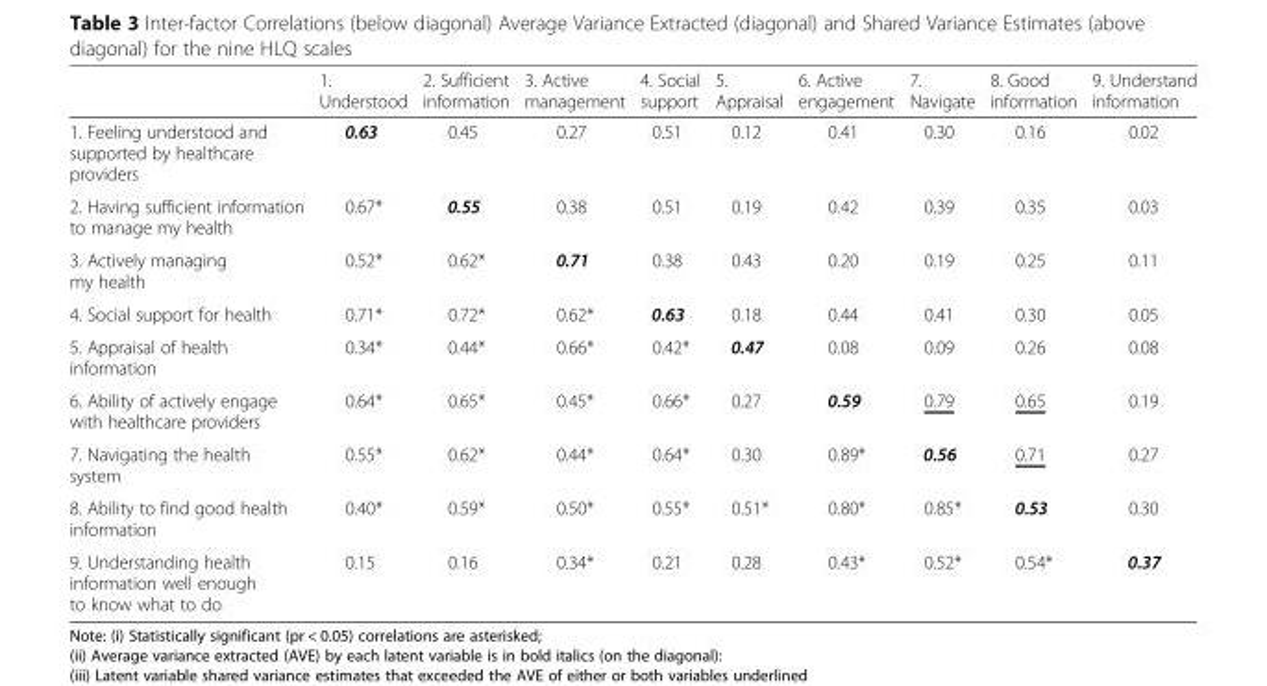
<table><thead><tr><td></td><td>1. Understood</td><td>2. Sufficient information</td><td>3. Active management</td><td>4. Social support</td><td>5. Appraisal</td><td>6. Active engagement</td><td>7. Navigate</td><td>8. Good information</td><td>9. Understand information</td></tr></thead><tbody><tr><td>1. Feeling understood and supported by healthcare providers</td><td>0.63</td><td>0.45</td><td>0.27</td><td>0.51</td><td>0.12</td><td>0.41</td><td>0.30</td><td>0.16</td><td>0.02</td></tr><tr><td>2. Having sufficient information to manage my health</td><td>0.67*</td><td>0.55</td><td>0.38</td><td>0.51</td><td>0.19</td><td>0.42</td><td>0.39</td><td>0.35</td><td>0.03</td></tr><tr><td>3. Actively managing my health</td><td>0.52*</td><td>0.62*</td><td>0.71</td><td>0.38</td><td>0.43</td><td>0.20</td><td>0.19</td><td>0.25</td><td>0.11</td></tr><tr><td>4. Social support for health</td><td>0.71*</td><td>0.72*</td><td>0.62*</td><td>0.63</td><td>0.18</td><td>0.44</td><td>0.41</td><td>0.30</td><td>0.05</td></tr><tr><td>5. Appraisal of health information</td><td>0.34*</td><td>0.44*</td><td>0.66*</td><td>0.42*</td><td>0.47</td><td>0.08</td><td>0.09</td><td>0.26</td><td>0.08</td></tr><tr><td>6. Ability of actively engage with healthcare providers</td><td>0.64*</td><td>0.65*</td><td>0.45*</td><td>0.66*</td><td>0.27</td><td>0.59</td><td>0.79</td><td>0.65</td><td>0.19</td></tr><tr><td>7. Navigating the health system</td><td>0.55*</td><td>0.62*</td><td>0.44*</td><td>0.64*</td><td>0.30</td><td>0.89*</td><td>0.56</td><td>0.71</td><td>0.27</td></tr><tr><td>8. Ability to find good health information</td><td>0.40*</td><td>0.59*</td><td>0.50*</td><td>0.55*</td><td>0.51*</td><td>0.80*</td><td>0.85*</td><td>0.53</td><td>0.30</td></tr><tr><td>9. Understanding health information well enough to know what to do</td><td>0.15</td><td>0.16</td><td>0.34*</td><td>0.21</td><td>0.28</td><td>0.43*</td><td>0.52*</td><td>0.54*</td><td>0.37</td></tr></tbody></table>